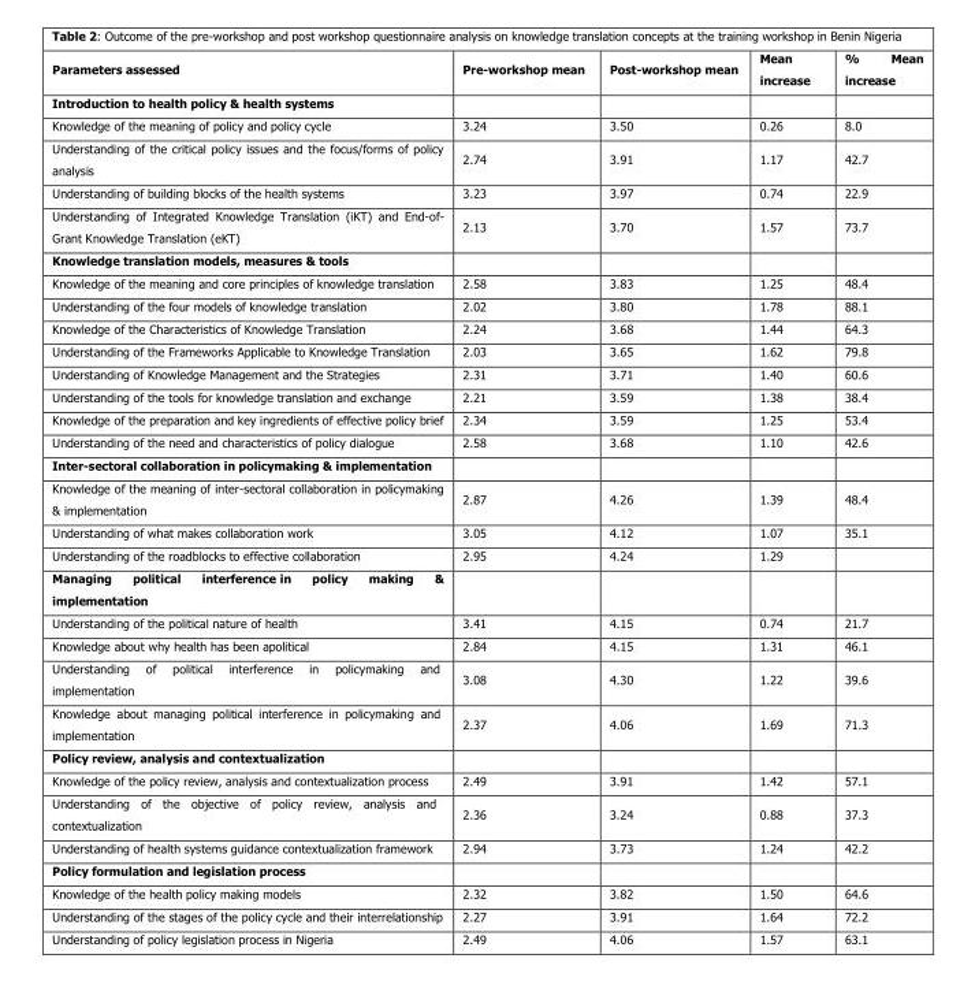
<table><thead><tr><td>Parameters assessed</td><td>Pre-workshop mean</td><td>Post-workshop mean</td><td>Mean increase</td><td>% Mean increase</td></tr></thead><tbody><tr><td colspan="5">Introduction to health policy &amp; health systems</td></tr><tr><td>Knowledge of the meaning of policy and policy cycle</td><td>3.24</td><td>3.50</td><td>0.26</td><td>8.0</td></tr><tr><td>Understanding of the critical policy issues and the focus/forms of policy analysis</td><td>2.74</td><td>3.91</td><td>1.17</td><td>42.7</td></tr><tr><td>Understanding of building blocks of the health systems</td><td>3.23</td><td>3.97</td><td>0.74</td><td>22.9</td></tr><tr><td>Understanding of Integrated Knowledge Translation (iKT) and End-of- Grant Knowledge Translation (eKT)</td><td>2.13</td><td>3.70</td><td>1.57</td><td>73.7</td></tr><tr><td colspan="5">Knowledge translation models, measures &amp; tools</td></tr><tr><td>Knowledge of the meaning and core principles of knowledge translation</td><td>2.58</td><td>3.83</td><td>1.25</td><td>48.4</td></tr><tr><td>Understanding of the four models of knowledge translation</td><td>2.02</td><td>3.80</td><td>1.78</td><td>88.1</td></tr><tr><td>Knowledge of the Characteristics of Knowledge Translation</td><td>2.24</td><td>3.68</td><td>1.44</td><td>64.3</td></tr><tr><td>Understanding of the Frameworks Applicable to Knowledge Translation</td><td>2.03</td><td>3.65</td><td>1.62</td><td>79.8</td></tr><tr><td>Understanding of Knowledge Management and the Strategies</td><td>2.31</td><td>3.71</td><td>1.40</td><td>60.6</td></tr><tr><td>Understanding of the tools for knowledge translation and exchange</td><td>2.21</td><td>3.59</td><td>1.38</td><td>38.4</td></tr><tr><td>Knowledge of the preparation and key ingredients of effective policy brief</td><td>2.34</td><td>3.59</td><td>1.25</td><td>53.4</td></tr><tr><td>Understanding of the need and characteristics of policy dialogue</td><td>2.58</td><td>3.68</td><td>1.10</td><td>42.6</td></tr><tr><td colspan="5">Inter-sectoral collaboration in policymaking &amp; implementation</td></tr><tr><td>Knowledge of the meaning of inter-sectoral collaboration in policymaking &amp; implementation</td><td>2.87</td><td>4.26</td><td>1.39</td><td>48.4</td></tr><tr><td>Understanding of what makes collaboration work</td><td>3.05</td><td>4.12</td><td>1.07</td><td>35.1</td></tr><tr><td>Understanding of the roadblocks to effective collaboration</td><td>2.95</td><td>4.24</td><td>1.29</td><td></td></tr><tr><td colspan="5">Managing political interference in policy making &amp; implementation</td></tr><tr><td>Understanding of the political nature of health</td><td>3.41</td><td>4.15</td><td>0.74</td><td>21.7</td></tr><tr><td>Knowledge about why health has been apolitical</td><td>2.84</td><td>4.15</td><td>1.31</td><td>46.1</td></tr><tr><td>Understanding of political interference in policymaking and implementation</td><td>3.08</td><td>4.30</td><td>1.22</td><td>39.6</td></tr><tr><td>Knowledge about managing political interference in policymaking and implementation</td><td>2.37</td><td>4.06</td><td>1.69</td><td>71.3</td></tr><tr><td colspan="5">Policy review, analysis and contextualization</td></tr><tr><td>Knowledge of the policy review, analysis and contextualization process</td><td>2.49</td><td>3.91</td><td>1.42</td><td>57.1</td></tr><tr><td>Understanding of the objective of policy review, analysis and contextualization</td><td>2.36</td><td>3.24</td><td>0.88</td><td>37.3</td></tr><tr><td>Understanding of health systems guidance contextualization framework</td><td>2.94</td><td>3.73</td><td>1.24</td><td>42.2</td></tr><tr><td colspan="5">Policy formulation and legislation process</td></tr><tr><td>Knowledge of the health policy making models</td><td>2.32</td><td>3.82</td><td>1.50</td><td>64.6</td></tr><tr><td>Understanding of the stages of the policy cycle and their interrelationship</td><td>2.27</td><td>3.91</td><td>1.64</td><td>72.2</td></tr><tr><td>Understanding of policy legislation process in Nigeria</td><td>2.49</td><td>4.06</td><td>1.57</td><td>63.1</td></tr></tbody></table>